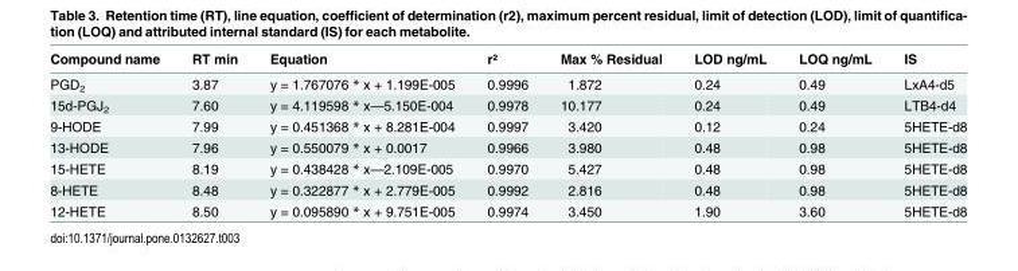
<table><thead><tr><td>Compound name</td><td>RT min</td><td>Equation</td><td>r²</td><td>Max % Residual</td><td>LOD ng/mL</td><td>LOQ ng/mL</td><td>IS</td></tr></thead><tbody><tr><td>PGD<sub>2</sub></td><td>3.87</td><td>y = 1.767076 * x + 1.199E-005</td><td>0.9996</td><td>1.872</td><td>0.24</td><td>0.49</td><td>LxA4-d5</td></tr><tr><td>15d-PGJ<sub>2</sub></td><td>7.60</td><td>y = 4.119598 * x—5.150E-004</td><td>0.9978</td><td>10.177</td><td>0.24</td><td>0.49</td><td>LTB4-d4</td></tr><tr><td>9-HODE</td><td>7.99</td><td>y = 0.451368 * x + 8.281E-004</td><td>0.9997</td><td>3.420</td><td>0.12</td><td>0.24</td><td>5HETE-d8</td></tr><tr><td>13-HODE</td><td>7.96</td><td>y = 0.550079 * x + 0.0017</td><td>0.9966</td><td>3.980</td><td>0.48</td><td>0.98</td><td>5HETE-d8</td></tr><tr><td>15-HETE</td><td>8.19</td><td>y = 0.438428 * x—2.109E-005</td><td>0.9970</td><td>5.427</td><td>0.48</td><td>0.98</td><td>5HETE-d8</td></tr><tr><td>8-HETE</td><td>8.48</td><td>y = 0.322877 * x + 2.779E-005</td><td>0.9992</td><td>2.816</td><td>0.48</td><td>0.98</td><td>5HETE-d8</td></tr><tr><td>12-HETE</td><td>8.50</td><td>y = 0.095890 * x + 9.751E-005</td><td>0.9974</td><td>3.450</td><td>1.90</td><td>3.60</td><td>5HETE-d8</td></tr></tbody></table>